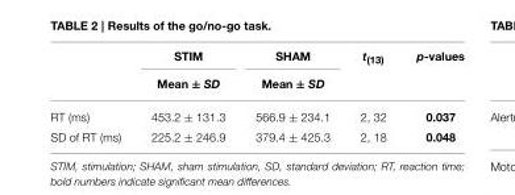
<table><thead><tr><td rowspan="2"></td><td rowspan="2">STIM Mean ± SD</td><td rowspan="2">SHAM Mean ± SD</td><td rowspan="2">t<sub>(13)</sub></td><td rowspan="2">p-values</td></tr><tr></tr></thead><tbody><tr><td>RT (ms)</td><td>453.2 ± 131.3</td><td>566.9 ± 234.1</td><td>2, 32</td><td>0.037</td></tr><tr><td>SD of RT (ms)</td><td>225.2 ± 246.9</td><td>379.4 ± 425.3</td><td>2, 18</td><td>0.048</td></tr></tbody></table>